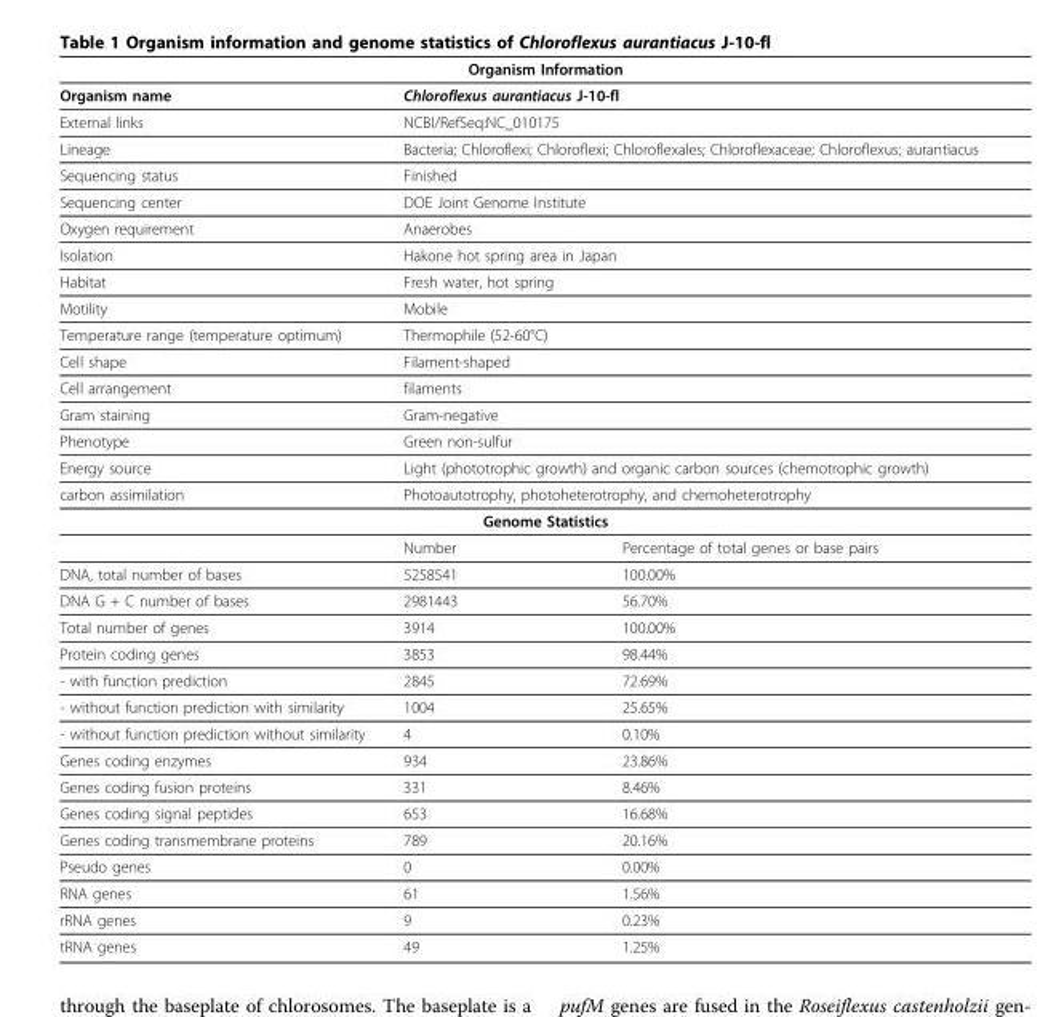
<table><thead><tr><td colspan="3">Organism Information</td></tr></thead><tbody><tr><td>Organism name</td><td colspan="2">Chloroflexus aurantiacus J-10-fl</td></tr><tr><td>External links</td><td colspan="2">NCBI/RefSeq:NC_010175</td></tr><tr><td>Lineage</td><td colspan="2">Bacteria; Chloroflexi; Chloroflexi; Chloroflexales; Chloroflexaceae; Chloroflexus; aurantiacus</td></tr><tr><td>Sequencing status</td><td colspan="2">Finished</td></tr><tr><td>Sequencing center</td><td colspan="2">DOE Joint Genome Institute</td></tr><tr><td>Oxygen requirement</td><td colspan="2">Anaerobes</td></tr><tr><td>Isolation</td><td colspan="2">Hakone hot spring area in Japan</td></tr><tr><td>Habitat</td><td colspan="2">Fresh water, hot spring</td></tr><tr><td>Motility</td><td colspan="2">Mobile</td></tr><tr><td>Temperature range (temperature optimum)</td><td colspan="2">Thermophile (52-60°C)</td></tr><tr><td>Cell shape</td><td colspan="2">Filament-shaped</td></tr><tr><td>Cell arrangement</td><td colspan="2">filaments</td></tr><tr><td>Gram staining</td><td colspan="2">Gram-negative</td></tr><tr><td>Phenotype</td><td colspan="2">Green non-sulfur</td></tr><tr><td>Energy source</td><td colspan="2">Light (phototrophic growth) and organic carbon sources (chemotrophic growth)</td></tr><tr><td>carbon assimilation</td><td colspan="2">Photoautotrophy, photoheterotrophy, and chemoheterotrophy</td></tr><tr><td colspan="3">Genome Statistics</td></tr><tr><td></td><td>Number</td><td>Percentage of total genes or base pairs</td></tr><tr><td>DNA, total number of bases</td><td>5258541</td><td>100.00%</td></tr><tr><td>DNA G + C number of bases</td><td>2981443</td><td>56.70%</td></tr><tr><td>Total number of genes</td><td>3914</td><td>100.00%</td></tr><tr><td>Protein coding genes</td><td>3853</td><td>98.44%</td></tr><tr><td>- with function prediction</td><td>2845</td><td>72.69%</td></tr><tr><td>- without function prediction with similarity</td><td>1004</td><td>25.65%</td></tr><tr><td>- without function prediction without similarity</td><td>4</td><td>0.10%</td></tr><tr><td>Genes coding enzymes</td><td>934</td><td>23.86%</td></tr><tr><td>Genes coding fusion proteins</td><td>331</td><td>8.46%</td></tr><tr><td>Genes coding signal peptides</td><td>653</td><td>16.68%</td></tr><tr><td>Genes coding transmembrane proteins</td><td>789</td><td>20.16%</td></tr><tr><td>Pseudo genes</td><td>0</td><td>0.00%</td></tr><tr><td>RNA genes</td><td>61</td><td>1.56%</td></tr><tr><td>rRNA genes</td><td>9</td><td>0.23%</td></tr><tr><td>tRNA genes</td><td>49</td><td>1.25%</td></tr></tbody></table>